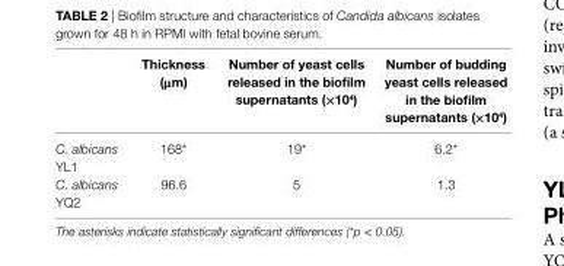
<table><thead><tr><td></td><td>Thickness (μm)</td><td>number of yeast cells released in the biofilm supernatants (×10<sup>4</sup>)</td><td>number of budding yeast cells released in the biofilm supernatants (×10<sup>4</sup>)</td></tr></thead><tbody><tr><td>C. albicans YL1</td><td>168*</td><td>19*</td><td>6.2*</td></tr><tr><td>C. albicans YQ2</td><td>96.6</td><td>5</td><td>1.3</td></tr></tbody></table>